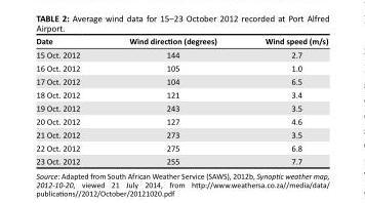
<table><thead><tr><td>Date</td><td>Wind direction (degrees)</td><td>Wind speed (m/s)</td></tr></thead><tbody><tr><td>15 Oct. 2012</td><td>144</td><td>2.7</td></tr><tr><td>16 Oct. 2012</td><td>105</td><td>1.0</td></tr><tr><td>17 Oct. 2012</td><td>104</td><td>6.5</td></tr><tr><td>18 Oct. 2012</td><td>121</td><td>3.4</td></tr><tr><td>19 Oct. 2012</td><td>243</td><td>3.5</td></tr><tr><td>20 Oct. 2012</td><td>127</td><td>4.6</td></tr><tr><td>21 Oct. 2012</td><td>273</td><td>3.5</td></tr><tr><td>22 Oct. 2012</td><td>275</td><td>6.8</td></tr><tr><td>23 Oct. 2012</td><td>255</td><td>7.7</td></tr></tbody></table>